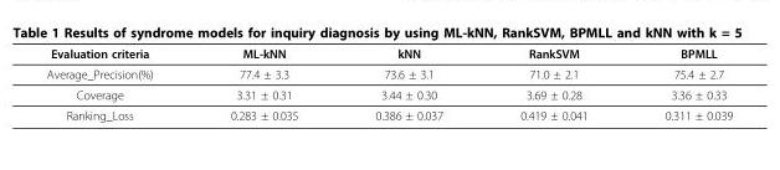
<table><thead><tr><td>Evaluation criteria</td><td>ML-kNN</td><td>kNN</td><td>RankSVM</td><td>BPMLL</td></tr></thead><tbody><tr><td>Average_Precision(%)</td><td>77.4 ± 3.3</td><td>73.6 ± 3.1</td><td>71.0 ± 2.1</td><td>75.4 ± 2.7</td></tr><tr><td>Coverage</td><td>3.31 ± 0.31</td><td>3.44 ± 0.30</td><td>3.69 ± 0.28</td><td>3.36 ± 0.33</td></tr><tr><td>Ranking_Loss</td><td>0.283 ± 0.035</td><td>0.386 ± 0.037</td><td>0.419 ± 0.041</td><td>0.311 ± 0.039</td></tr></tbody></table>